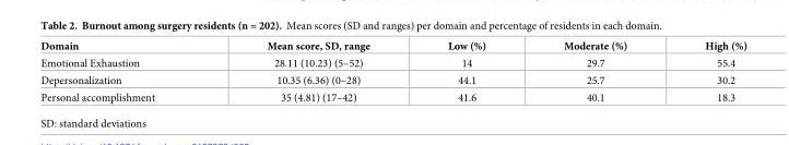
<table><thead><tr><td>Domain</td><td>Mean score, SD, range</td><td>Low (%)</td><td>Moderate (%)</td><td>High (%)</td></tr></thead><tbody><tr><td>Emotional Exhaustion</td><td>28.11 (10.23) (5–52)</td><td>14</td><td>29.7</td><td>55.4</td></tr><tr><td>Depersonalization</td><td>10.35 (6.36) (0–28)</td><td>44.1</td><td>25.7</td><td>30.2</td></tr><tr><td>Personal accomplishment</td><td>35 (4.81) (17–42)</td><td>41.6</td><td>40.1</td><td>18.3</td></tr></tbody></table>